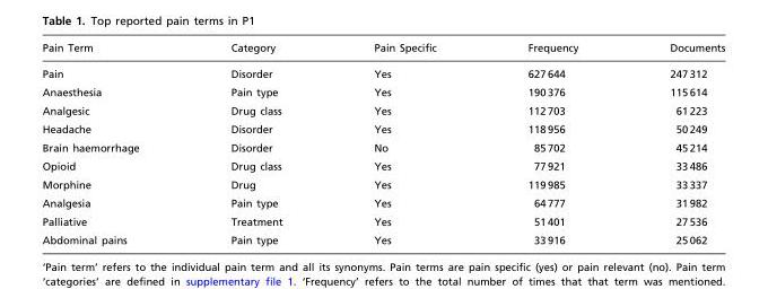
<table><thead><tr><td>Pain Term</td><td>Category</td><td>Pain Specific</td><td>Frequency</td><td>Documents</td></tr></thead><tbody><tr><td>Pain</td><td>Disorder</td><td>Yes</td><td>627 644</td><td>247 312</td></tr><tr><td>Anaesthesia</td><td>Pain type</td><td>Yes</td><td>190 376</td><td>115 614</td></tr><tr><td>Analgesic</td><td>Drug class</td><td>Yes</td><td>112 703</td><td>61 223</td></tr><tr><td>Headache</td><td>Disorder</td><td>Yes</td><td>118 956</td><td>50 249</td></tr><tr><td>Brain haemorrhage</td><td>Disorder</td><td>No</td><td>85 702</td><td>45 214</td></tr><tr><td>Opioid</td><td>Drug class</td><td>Yes</td><td>77 921</td><td>33 486</td></tr><tr><td>Morphine</td><td>Drug</td><td>Yes</td><td>119 985</td><td>33 337</td></tr><tr><td>Analgesia</td><td>Pain type</td><td>Yes</td><td>64 777</td><td>31 982</td></tr><tr><td>Palliative</td><td>Treatment</td><td>Yes</td><td>51 401</td><td>27 536</td></tr><tr><td>Abdominal pains</td><td>Pain type</td><td>Yes</td><td>33 916</td><td>25 062</td></tr></tbody></table>